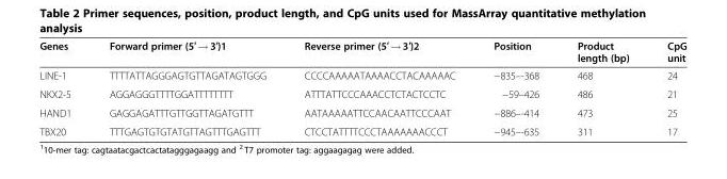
<table><thead><tr><td>Genes</td><td>Forward primer (5′ → 3′)1</td><td>Reverse primer (5′ → 3′)2</td><td>Position</td><td>Product length (bp)</td><td>CpG unit</td></tr></thead><tbody><tr><td>LINE-1</td><td>TTTTATTAGGGAGTGTTAGATAGTGGG</td><td>CCCCAAAAATAAAACCTACAAAAAC</td><td>−835–-368</td><td>468</td><td>24</td></tr><tr><td>NKX2-5</td><td>AGGAGGGTTTTGGATTTTTTTT</td><td>ATTTATTCCCAAACCTCTACTCCTC</td><td>−59–426</td><td>486</td><td>21</td></tr><tr><td>HAND1</td><td>GAGGAGATTTGTTGGTTAGATGTTT</td><td>AATAAAAATTCCAACAATTCCCAAT</td><td>−886–-414</td><td>473</td><td>25</td></tr><tr><td>TBX20</td><td>TTTGAGTGTGTATGTTAGTTTGAGTTT</td><td>CTCCTATTTTCCCTAAAAAAACCCT</td><td>−945–-635</td><td>311</td><td>17</td></tr></tbody></table>